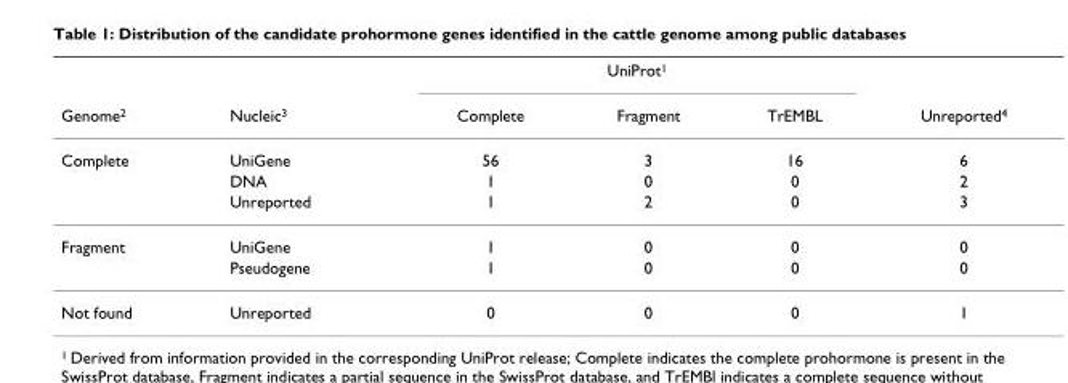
<table><thead><tr><td rowspan="2">Genome<sup>2</sup></td><td rowspan="2">Nucleic<sup>3</sup></td><td colspan="3">UniProt<sup>1</sup></td><td rowspan="2">Unreported<sup>4</sup></td></tr><tr><td>Complete</td><td>Fragment</td><td>TrEMBL</td></tr></thead><tbody><tr><td rowspan="3">Complete</td><td>UniGene</td><td>56</td><td>3</td><td>16</td><td>6</td></tr><tr><td>DNA</td><td>1</td><td>0</td><td>0</td><td>2</td></tr><tr><td>Unreported</td><td>1</td><td>2</td><td>0</td><td>3</td></tr><tr><td rowspan="2">Fragment</td><td>UniGene</td><td>1</td><td>0</td><td>0</td><td>0</td></tr><tr><td>Pseudogene</td><td>1</td><td>0</td><td>0</td><td>0</td></tr><tr><td>Not found</td><td>Unreported</td><td>0</td><td>0</td><td>0</td><td>1</td></tr></tbody></table>